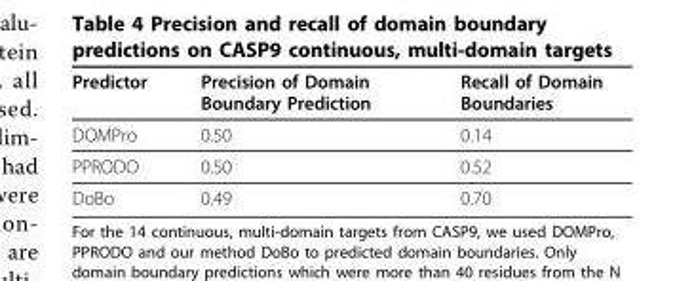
<table><thead><tr><td>Predictor</td><td>Precision of Domain Boundary Prediction</td><td>Recall of Domain Boundaries</td></tr></thead><tbody><tr><td>DOMPro</td><td>0.50</td><td>0.14</td></tr><tr><td>PPRODO</td><td>0.50</td><td>0.52</td></tr><tr><td>DoBo</td><td>0.49</td><td>0.70</td></tr></tbody></table>